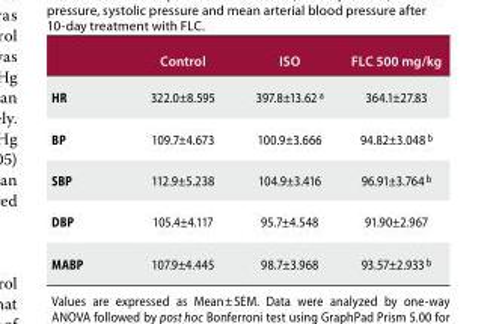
<table><thead><tr><td></td><td>Control</td><td>ISO</td><td>FLC 500 mg/kg</td></tr></thead><tbody><tr><td>HR</td><td>322.0±8.595</td><td>397.8±13.62 <sup>a</sup></td><td>364.1±27.83</td></tr><tr><td>BP</td><td>109.7±4.673</td><td>100.9±3.666</td><td>94.82±3.048 <sup>b</sup></td></tr><tr><td>SBP</td><td>112.9±5.238</td><td>104.9±3.416</td><td>96.91±3.764 <sup>b</sup></td></tr><tr><td>DBP</td><td>105.4±4.117</td><td>95.7±4.548</td><td>91.90±2.967</td></tr><tr><td>MABP</td><td>107.9±4.445</td><td>98.7±3.968</td><td>93.57±2.933 <sup>b</sup></td></tr></tbody></table>